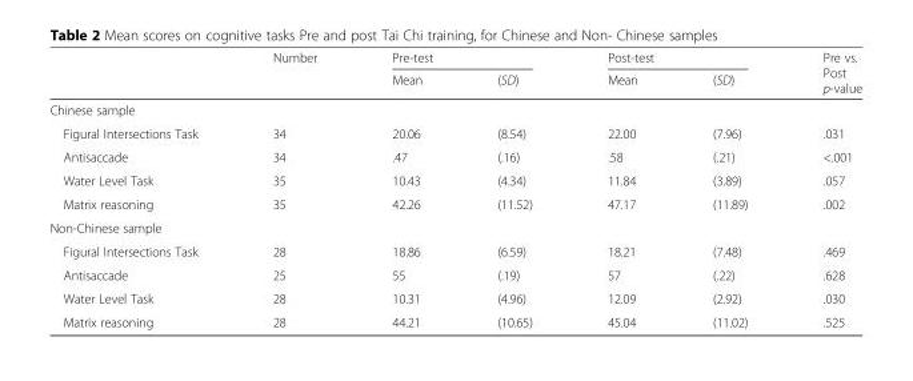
<table><thead><tr><td rowspan="2"></td><td rowspan="2">Number</td><td colspan="2">Pre-test</td><td colspan="2">Post-test</td><td rowspan="2">Pre vs. Post p-value</td></tr><tr><td>Mean</td><td>(SD)</td><td>Mean</td><td>(SD)</td></tr></thead><tbody><tr><td colspan="7">Chinese sample</td></tr><tr><td>Figural Intersections Task</td><td>34</td><td>20.06</td><td>(8.54)</td><td>22.00</td><td>(7.96)</td><td>.031</td></tr><tr><td>Antisaccade</td><td>34</td><td>.47</td><td>(.16)</td><td>.58</td><td>(.21)</td><td>&lt;.001</td></tr><tr><td>Water Level Task</td><td>35</td><td>10.43</td><td>(4.34)</td><td>11.84</td><td>(3.89)</td><td>.057</td></tr><tr><td>Matrix reasoning</td><td>35</td><td>42.26</td><td>(11.52)</td><td>47.17</td><td>(11.89)</td><td>.002</td></tr><tr><td colspan="7">Non-Chinese sample</td></tr><tr><td>Figural Intersections Task</td><td>28</td><td>18.86</td><td>(6.59)</td><td>18.21</td><td>(7.48)</td><td>.469</td></tr><tr><td>Antisaccade</td><td>25</td><td>55</td><td>(.19)</td><td>57</td><td>(.22)</td><td>.628</td></tr><tr><td>Water Level Task</td><td>28</td><td>10.31</td><td>(4.96)</td><td>12.09</td><td>(2.92)</td><td>.030</td></tr><tr><td>Matrix reasoning</td><td>28</td><td>44.21</td><td>(10.65)</td><td>45.04</td><td>(11.02)</td><td>.525</td></tr></tbody></table>